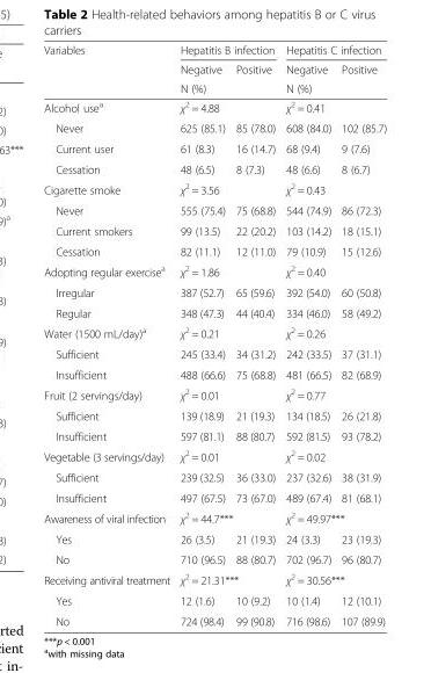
<table><thead><tr><td rowspan="3">Variables</td><td colspan="2">Hepatitis B infection</td><td colspan="2">Hepatitis C infection</td></tr><tr><td>Negative</td><td>Positive</td><td>Negative</td><td>Positive</td></tr><tr><td colspan="2">N (%)</td><td colspan="2">N (%)</td></tr></thead><tbody><tr><td>Alcohol use<sup>a</sup></td><td colspan="2">χ<sup>2</sup> = 4.88</td><td colspan="2">χ<sup>2</sup> = 0.41</td></tr><tr><td>Never</td><td>625 (85.1)</td><td>85 (78.0)</td><td>608 (84.0)</td><td>102 (85.7)</td></tr><tr><td>Current user</td><td>61 (8.3)</td><td>16 (14.7)</td><td>68 (9.4)</td><td>9 (7.6)</td></tr><tr><td>Cessation</td><td>48 (6.5)</td><td>8 (7.3)</td><td>48 (6.6)</td><td>8 (6.7)</td></tr><tr><td>Cigarette smoke</td><td colspan="2">χ<sup>2</sup> = 3.56</td><td colspan="2">χ<sup>2</sup> = 0.43</td></tr><tr><td>Never</td><td>555 (75.4)</td><td>75 (68.8)</td><td>544 (74.9)</td><td>86 (72.3)</td></tr><tr><td>Current smokers</td><td>99 (13.5)</td><td>22 (20.2)</td><td>103 (14.2)</td><td>18 (15.1)</td></tr><tr><td>Cessation</td><td>82 (11.1)</td><td>12 (11.0)</td><td>79 (10.9)</td><td>15 (12.6)</td></tr><tr><td>Adopting regular exercise<sup>a</sup></td><td colspan="2">χ<sup>2</sup> = 1.86</td><td colspan="2">χ<sup>2</sup> = 0.40</td></tr><tr><td>Irregular</td><td>387 (52.7)</td><td>65 (59.6)</td><td>392 (54.0)</td><td>60 (50.8)</td></tr><tr><td>Regular</td><td>348 (47.3)</td><td>44 (40.4)</td><td>334 (46.0)</td><td>58 (49.2)</td></tr><tr><td>Water (1500 mL/day)<sup>a</sup></td><td colspan="2">χ<sup>2</sup> = 0.21</td><td colspan="2">χ<sup>2</sup> = 0.26</td></tr><tr><td>Sufficient</td><td>245 (33.4)</td><td>34 (31.2)</td><td>242 (33.5)</td><td>37 (31.1)</td></tr><tr><td>Insufficient</td><td>488 (66.6)</td><td>75 (68.8)</td><td>481 (66.5)</td><td>82 (68.9)</td></tr><tr><td>Fruit (2 servings/day)</td><td colspan="2">χ<sup>2</sup> = 0.01</td><td colspan="2">χ<sup>2</sup> = 0.77</td></tr><tr><td>Sufficient</td><td>139 (18.9)</td><td>21 (19.3)</td><td>134 (18.5)</td><td>26 (21.8)</td></tr><tr><td>Insufficient</td><td>597 (81.1)</td><td>88 (80.7)</td><td>592 (81.5)</td><td>93 (78.2)</td></tr><tr><td>Vegetable (3 servings/day)</td><td colspan="2">χ<sup>2</sup> = 0.01</td><td colspan="2">χ<sup>2</sup> = 0.02</td></tr><tr><td>Sufficient</td><td>239 (32.5)</td><td>36 (33.0)</td><td>237 (32.6)</td><td>38 (31.9)</td></tr><tr><td>Insufficient</td><td>497 (67.5)</td><td>73 (67.0)</td><td>489 (67.4)</td><td>81 (68.1)</td></tr><tr><td>Awareness of viral infection</td><td colspan="2">χ<sup>2</sup> = 44.7***</td><td colspan="2">χ<sup>2</sup> = 49.97***</td></tr><tr><td>Yes</td><td>26 (3.5)</td><td>21 (19.3)</td><td>24 (3.3)</td><td>23 (19.3)</td></tr><tr><td>No</td><td>710 (96.5)</td><td>88 (80.7)</td><td>702 (96.7)</td><td>96 (80.7)</td></tr><tr><td>Receiving antiviral treatment</td><td colspan="2">χ<sup>2</sup> = 21.31***</td><td colspan="2">χ<sup>2</sup> = 30.56***</td></tr><tr><td>Yes</td><td>12 (1.6)</td><td>10 (9.2)</td><td>10 (1.4)</td><td>12 (10.1)</td></tr><tr><td>No</td><td>724 (98.4)</td><td>99 (90.8)</td><td>716 (98.6)</td><td>107 (89.9)</td></tr></tbody></table>